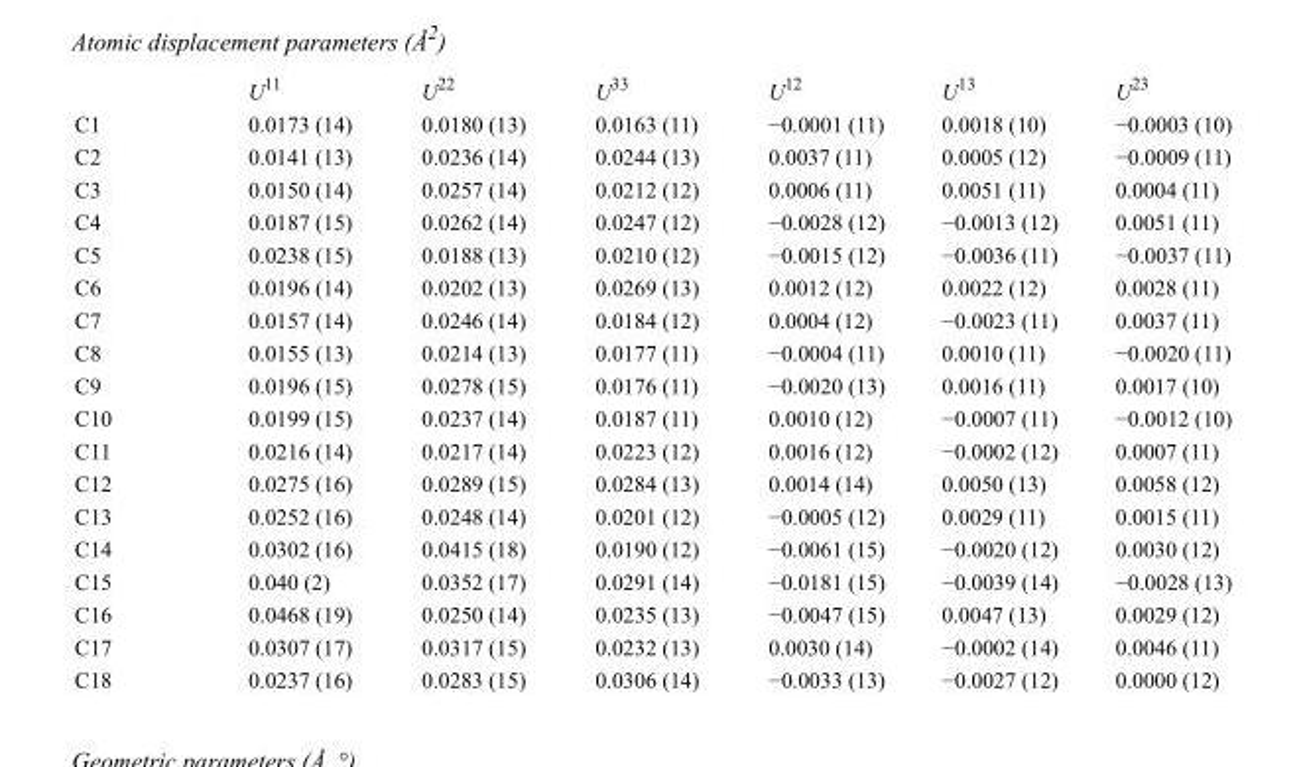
<table><thead><tr><td></td><td>U<sup>11</sup></td><td>U<sup>22</sup></td><td>U<sup>33</sup></td><td>U<sup>12</sup></td><td>U<sup>13</sup></td><td>U<sup>23</sup></td></tr></thead><tbody><tr><td>C1</td><td>0.0173 (14)</td><td>0.0180 (13)</td><td>0.0163 (11)</td><td>−0.0001 (11)</td><td>0.0018 (10)</td><td>−0.0003 (10)</td></tr><tr><td>C2</td><td>0.0141 (13)</td><td>0.0236 (14)</td><td>0.0244 (13)</td><td>0.0037 (11)</td><td>0.0005 (12)</td><td>−0.0009 (11)</td></tr><tr><td>C3</td><td>0.0150 (14)</td><td>0.0257 (14)</td><td>0.0212 (12)</td><td>0.0006 (11)</td><td>0.0051 (11)</td><td>0.0004 (11)</td></tr><tr><td>C4</td><td>0.0187 (15)</td><td>0.0262 (14)</td><td>0.0247 (12)</td><td>−0.0028 (12)</td><td>−0.0013 (12)</td><td>0.0051 (11)</td></tr><tr><td>C5</td><td>0.0238 (15)</td><td>0.0188 (13)</td><td>0.0210 (12)</td><td>−0.0015 (12)</td><td>−0.0036 (11)</td><td>−0.0037 (11)</td></tr><tr><td>C6</td><td>0.0196 (14)</td><td>0.0202 (13)</td><td>0.0269 (13)</td><td>0.0012 (12)</td><td>0.0022 (12)</td><td>0.0028 (11)</td></tr><tr><td>C7</td><td>0.0157 (14)</td><td>0.0246 (14)</td><td>0.0184 (12)</td><td>0.0004 (12)</td><td>−0.0023 (11)</td><td>0.0037 (11)</td></tr><tr><td>C8</td><td>0.0155 (13)</td><td>0.0214 (13)</td><td>0.0177 (11)</td><td>−0.0004 (11)</td><td>0.0010 (11)</td><td>−0.0020 (11)</td></tr><tr><td>C9</td><td>0.0196 (15)</td><td>0.0278 (15)</td><td>0.0176 (11)</td><td>−0.0020 (13)</td><td>0.0016 (11)</td><td>0.0017 (10)</td></tr><tr><td>C10</td><td>0.0199 (15)</td><td>0.0237 (14)</td><td>0.0187 (11)</td><td>0.0010 (12)</td><td>−0.0007 (11)</td><td>−0.0012 (10)</td></tr><tr><td>C11</td><td>0.0216 (14)</td><td>0.0217 (14)</td><td>0.0223 (12)</td><td>0.0016 (12)</td><td>−0.0002 (12)</td><td>0.0007 (11)</td></tr><tr><td>C12</td><td>0.0275 (16)</td><td>0.0289 (15)</td><td>0.0284 (13)</td><td>0.0014 (14)</td><td>0.0050 (13)</td><td>0.0058 (12)</td></tr><tr><td>C13</td><td>0.0252 (16)</td><td>0.0248 (14)</td><td>0.0201 (12)</td><td>−0.0005 (12)</td><td>0.0029 (11)</td><td>0.0015 (11)</td></tr><tr><td>C14</td><td>0.0302 (16)</td><td>0.0415 (18)</td><td>0.0190 (12)</td><td>−0.0061 (15)</td><td>−0.0020 (12)</td><td>0.0030 (12)</td></tr><tr><td>C15</td><td>0.040 (2)</td><td>0.0352 (17)</td><td>0.0291 (14)</td><td>−0.0181 (15)</td><td>−0.0039 (14)</td><td>−0.0028 (13)</td></tr><tr><td>C16</td><td>0.0468 (19)</td><td>0.0250 (14)</td><td>0.0235 (13)</td><td>−0.0047 (15)</td><td>0.0047 (13)</td><td>0.0029 (12)</td></tr><tr><td>C17</td><td>0.0307 (17)</td><td>0.0317 (15)</td><td>0.0232 (13)</td><td>0.0030 (14)</td><td>−0.0002 (14)</td><td>0.0046 (11)</td></tr><tr><td>C18</td><td>0.0237 (16)</td><td>0.0283 (15)</td><td>0.0306 (14)</td><td>−0.0033 (13)</td><td>−0.0027 (12)</td><td>0.0000 (12)</td></tr></tbody></table>